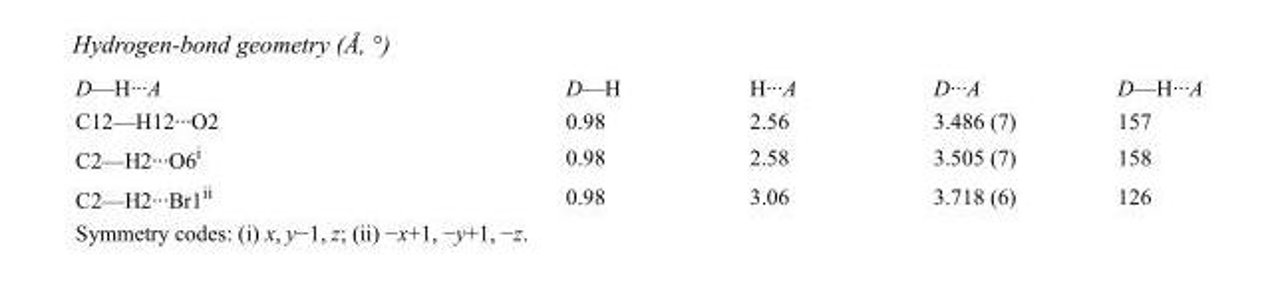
<table><tbody><tr><td>D—H···A</td><td>D—H</td><td>H···A</td><td>D···A</td><td>D—H···A</td></tr><tr><td>C12—H12···O2</td><td>0.98</td><td>2.56</td><td>3.486 (7)</td><td>157</td></tr><tr><td>C2—H2···O6<sup>i</sup></td><td>0.98</td><td>2.58</td><td>3.505 (7)</td><td>158</td></tr><tr><td>C2—H2···Br1<sup>ii</sup></td><td>0.98</td><td>3.06</td><td>3.718 (6)</td><td>126</td></tr></tbody></table>